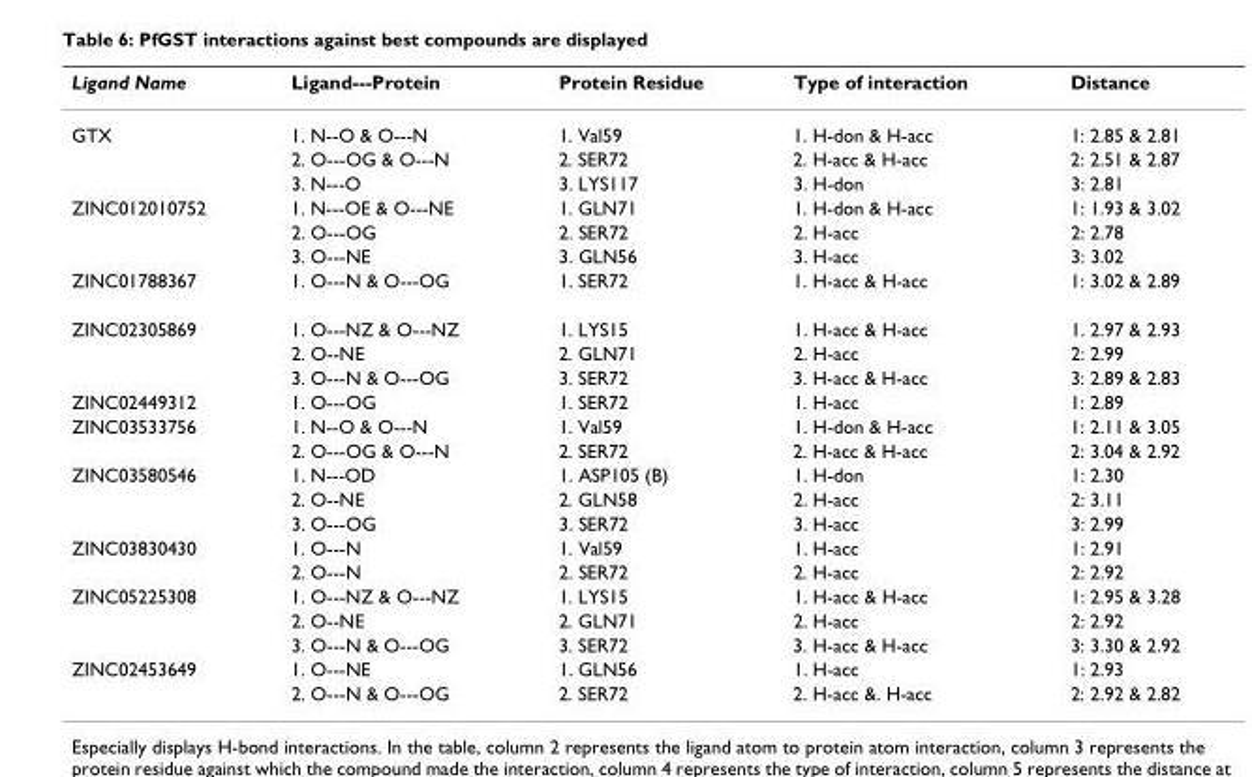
<table><thead><tr><td>Ligand Name</td><td>Ligand---Protein</td><td>Protein Residue</td><td>Type of interaction</td><td>Distance</td></tr></thead><tbody><tr><td rowspan="3">GTX</td><td>1. N--O &amp; O---N</td><td>1. Val59</td><td>1. H-don &amp; H-acc</td><td>1: 2.85 &amp; 2.81</td></tr><tr><td>2. O---OG &amp; O---N</td><td>2. SER72</td><td>2. H-acc &amp; H-acc</td><td>2: 2.51 &amp; 2.87</td></tr><tr><td>3. N---O</td><td>3. LYS117</td><td>3. H-don</td><td>3: 2.81</td></tr><tr><td rowspan="3">ZINC012010752</td><td>1. N---OE &amp; O---NE</td><td>1. GLN71</td><td>1. H-don &amp; H-acc</td><td>1: 1.93 &amp; 3.02</td></tr><tr><td>2. O---OG</td><td>2. SER72</td><td>2. H-acc</td><td>2: 2.78</td></tr><tr><td>3. O---NE</td><td>3. GLN56</td><td>3. H-acc</td><td>3: 3.02</td></tr><tr><td>ZINC01788367</td><td>1. O---N &amp; O---OG</td><td>1. SER72</td><td>1. H-acc &amp; H-acc</td><td>1: 3.02 &amp; 2.89</td></tr><tr><td rowspan="3">ZINC02305869</td><td>1. O---NZ &amp; O---NZ</td><td>1. LYS15</td><td>1. H-acc &amp; H-acc</td><td>1. 2.97 &amp; 2.93</td></tr><tr><td>2. O--NE</td><td>2. GLN71</td><td>2. H-acc</td><td>2: 2.99</td></tr><tr><td>3. O---N &amp; O---OG</td><td>3. SER72</td><td>3. H-acc &amp; H-acc</td><td>3: 2.89 &amp; 2.83</td></tr><tr><td>ZINC02449312</td><td>1. O---OG</td><td>1. SER72</td><td>1. H-acc</td><td>1: 2.89</td></tr><tr><td rowspan="2">ZINC03533756</td><td>1. N--O &amp; O---N</td><td>1. Val59</td><td>1. H-don &amp; H-acc</td><td>1: 2.11 &amp; 3.05</td></tr><tr><td>2. O---OG &amp; O---N</td><td>2. SER72</td><td>2. H-acc &amp; H-acc</td><td>2: 3.04 &amp; 2.92</td></tr><tr><td rowspan="3">ZINC03580546</td><td>1. N---OD</td><td>1. ASP105 (B)</td><td>1. H-don</td><td>1: 2.30</td></tr><tr><td>2. O--NE</td><td>2. GLN58</td><td>2. H-acc</td><td>2: 3.11</td></tr><tr><td>3. O---OG</td><td>3. SER72</td><td>3. H-acc</td><td>3: 2.99</td></tr><tr><td rowspan="2">ZINC03830430</td><td>1. O---N</td><td>1. Val59</td><td>1. H-acc</td><td>1: 2.91</td></tr><tr><td>2. O---N</td><td>2. SER72</td><td>2. H-acc</td><td>2: 2.92</td></tr><tr><td rowspan="3">ZINC05225308</td><td>1. O---NZ &amp; O---NZ</td><td>1. LYS15</td><td>1. H-acc &amp; H-acc</td><td>1: 2.95 &amp; 3.28</td></tr><tr><td>2. O--NE</td><td>2. GLN71</td><td>2. H-acc</td><td>2: 2.92</td></tr><tr><td>3. O---N &amp; O---OG</td><td>3. SER72</td><td>3. H-acc &amp; H-acc</td><td>3: 3.30 &amp; 2.92</td></tr><tr><td rowspan="2">ZINC02453649</td><td>1. O---NE</td><td>1. GLN56</td><td>1. H-acc</td><td>1: 2.93</td></tr><tr><td>2. O---N &amp; O---OG</td><td>2. SER72</td><td>2. H-acc &amp;. H-acc</td><td>2: 2.92 &amp; 2.82</td></tr></tbody></table>